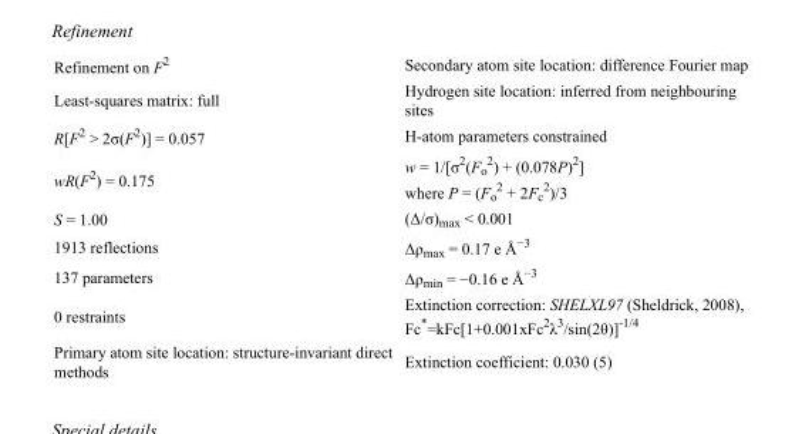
<table><tbody><tr><td>Refinement on F<sup>2</sup></td><td>Secondary atom site location: difference Fourier map</td></tr><tr><td>Least-squares matrix: full</td><td>Hydrogen site location: inferred from neighbouring sites</td></tr><tr><td>R[F<sup>2</sup> &gt; 2σ(F<sup>2</sup>)] = 0.057</td><td>H-atom parameters constrained</td></tr><tr><td>wR(F<sup>2</sup>) = 0.175</td><td>w = 1/[σ<sup>2</sup>(F<sub>o</sub> <sup>2</sup>) + (0.078P)<sup>2</sup>] where P = (F<sub>o</sub> <sup>2</sup> + 2F<sub>c</sub> <sup>2</sup>)/3</td></tr><tr><td>S = 1.00</td><td>(Δ/σ)<sub>max</sub> &lt; 0.001</td></tr><tr><td>1913 reflections</td><td>Δρ<sub>max</sub> = 0.17 e Å<sup>−3</sup></td></tr><tr><td>137 parameters</td><td>Δρ<sub>min</sub> = −0.16 e Å<sup>−3</sup></td></tr><tr><td>0 restraints</td><td>Extinction correction: SHELXL97 (Sheldrick, 2008), Fc*=kFc[1+0.001xFc<sup>2</sup>λ<sup>3</sup>/sin(2θ)]<sup>-1/4</sup></td></tr><tr><td>Primary atom site location: structure-invariant direct methods</td><td>Extinction coefficient: 0.030 (5)</td></tr></tbody></table>